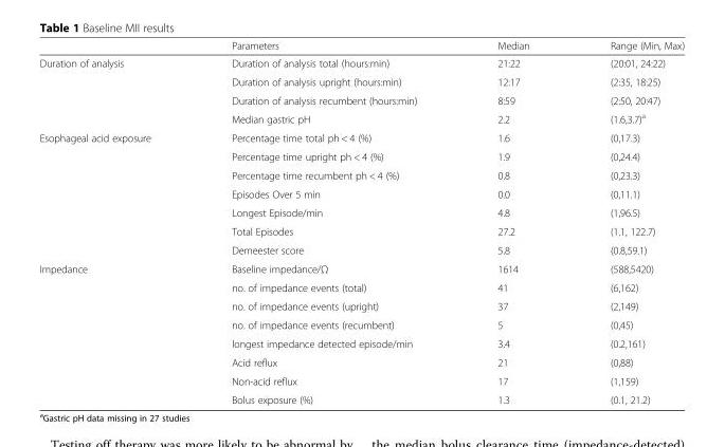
<table><thead><tr><td></td><td>Parameters</td><td>Median</td><td>Range (Min, Max)</td></tr></thead><tbody><tr><td rowspan="4">Duration of analysis</td><td>Duration of analysis total (hours:min)</td><td>21:22</td><td>(20:01, 24:22)</td></tr><tr><td>Duration of analysis upright (hours:min)</td><td>12:17</td><td>(2:35, 18:25)</td></tr><tr><td>Duration of analysis recumbent (hours:min)</td><td>8:59</td><td>(2:50, 20:47)</td></tr><tr><td>Median gastric pH</td><td>2.2</td><td>(1.6,3.7)<sup>a</sup></td></tr><tr><td rowspan="7">Esophageal acid exposure</td><td>Percentage time total ph &lt; 4 (%)</td><td>1.6</td><td>(0,17.3)</td></tr><tr><td>Percentage time upright ph &lt; 4 (%)</td><td>1.9</td><td>(0,24.4)</td></tr><tr><td>Percentage time recumbent ph &lt; 4 (%)</td><td>0.8</td><td>(0,23.3)</td></tr><tr><td>Episodes Over 5 min</td><td>0.0</td><td>(0,11.1)</td></tr><tr><td>Longest Episode/min</td><td>4.8</td><td>(1,96.5)</td></tr><tr><td>Total Episodes</td><td>27.2</td><td>(1.1, 122.7)</td></tr><tr><td>Demeester score</td><td>5.8</td><td>(0.8,59.1)</td></tr><tr><td rowspan="8">Impedance</td><td>Baseline impedance/Ω</td><td>1614</td><td>(588,5420)</td></tr><tr><td>no. of impedance events (total)</td><td>41</td><td>(6,162)</td></tr><tr><td>no. of impedance events (upright)</td><td>37</td><td>(2,149)</td></tr><tr><td>no. of impedance events (recumbent)</td><td>5</td><td>(0,45)</td></tr><tr><td>longest impedance detected episode/min</td><td>3.4</td><td>(0.2,161)</td></tr><tr><td>Acid reflux</td><td>21</td><td>(0,88)</td></tr><tr><td>Non-acid reflux</td><td>17</td><td>(1,159)</td></tr><tr><td>Bolus exposure (%)</td><td>1.3</td><td>(0.1, 21.2)</td></tr></tbody></table>